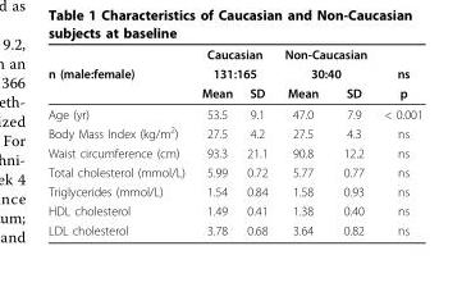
<table><thead><tr><td rowspan="3">n (male:female)</td><td rowspan="2" colspan="2">Caucasian 131:165</td><td rowspan="2" colspan="2">Non-Caucasian 30:40</td><td rowspan="3">ns p</td></tr><tr></tr><tr><td>Mean</td><td>SD</td><td>Mean</td><td>SD</td></tr></thead><tbody><tr><td>Age (yr)</td><td>53.5</td><td>9.1</td><td>47.0</td><td>7.9</td><td>&lt; 0.001</td></tr><tr><td>Body Mass Index (kg/m<sup>2</sup>)</td><td>27.5</td><td>4.2</td><td>27.5</td><td>4.3</td><td>ns</td></tr><tr><td>Waist circumference (cm)</td><td>93.3</td><td>21.1</td><td>90.8</td><td>12.2</td><td>ns</td></tr><tr><td>Total cholesterol (mmol/L)</td><td>5.99</td><td>0.72</td><td>5.77</td><td>0.77</td><td>ns</td></tr><tr><td>Triglycerides (mmol/L)</td><td>1.54</td><td>0.84</td><td>1.58</td><td>0.93</td><td>ns</td></tr><tr><td>HDL cholesterol</td><td>1.49</td><td>0.41</td><td>1.38</td><td>0.40</td><td>ns</td></tr><tr><td>LDL cholesterol</td><td>3.78</td><td>0.68</td><td>3.64</td><td>0.82</td><td>ns</td></tr></tbody></table>